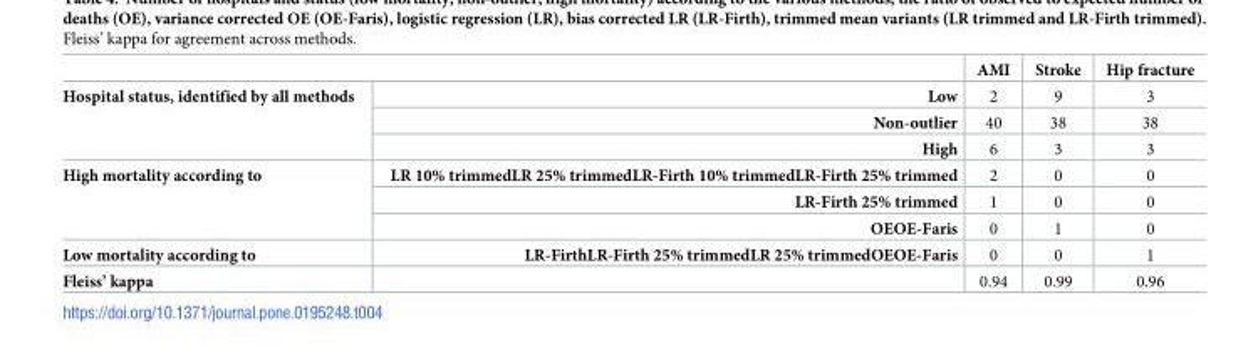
<table><thead><tr><td></td><td></td><td>AMI</td><td>Stroke</td><td>Hip fracture</td></tr></thead><tbody><tr><td rowspan="3">Hospital status, identified by all methods</td><td>Low</td><td>2</td><td>9</td><td>3</td></tr><tr><td>Non-outlier</td><td>40</td><td>38</td><td>38</td></tr><tr><td>High</td><td>6</td><td>3</td><td>3</td></tr><tr><td rowspan="3">High mortality according to</td><td>LR 10% trimmedLR 25% trimmedLR-Firth 10% trimmedLR-Firth 25% trimmed</td><td>2</td><td>0</td><td>0</td></tr><tr><td>LR-Firth 25% trimmed</td><td>1</td><td>0</td><td>0</td></tr><tr><td>OEOE-Faris</td><td>0</td><td>1</td><td>0</td></tr><tr><td>Low mortality according to</td><td>LR-FirthLR-Firth 25% trimmedLR 25% trimmedOEOE-Faris</td><td>0</td><td>0</td><td>1</td></tr><tr><td>Fleiss’ kappa</td><td></td><td>0.94</td><td>0.99</td><td>0.96</td></tr></tbody></table>